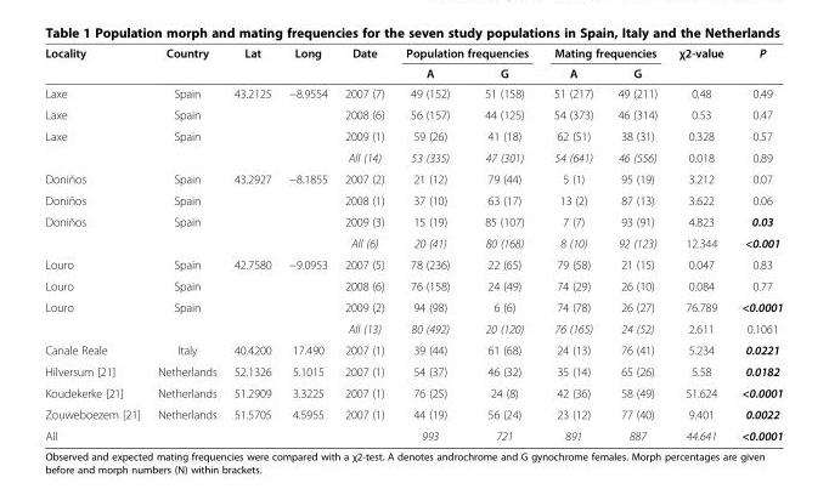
<table><thead><tr><td rowspan="2">Locality</td><td rowspan="2">Country</td><td rowspan="2">Lat</td><td rowspan="2">Long</td><td rowspan="2">Date</td><td colspan="2">Population frequencies</td><td colspan="2">Mating frequencies</td><td rowspan="2">χ2-value</td><td rowspan="2">P</td></tr><tr><td>A</td><td>G</td><td>A</td><td>G</td></tr></thead><tbody><tr><td>Laxe</td><td>Spain</td><td>43.2125</td><td>−8.9554</td><td>2007 (7)</td><td>49 (152)</td><td>51 (158)</td><td>51 (217)</td><td>49 (211)</td><td>0.48</td><td>0.49</td></tr><tr><td>Laxe</td><td>Spain</td><td></td><td></td><td>2008 (6)</td><td>56 (157)</td><td>44 (125)</td><td>54 (373)</td><td>46 (314)</td><td>0.53</td><td>0.47</td></tr><tr><td rowspan="2">Laxe</td><td>Spain</td><td></td><td></td><td>2009 (1)</td><td>59 (26)</td><td>41 (18)</td><td>62 (51)</td><td>38 (31)</td><td>0.328</td><td>0.57</td></tr><tr><td></td><td></td><td></td><td>All (14)</td><td>53 (335)</td><td>47 (301)</td><td>54 (641)</td><td>46 (556)</td><td>0.018</td><td>0.89</td></tr><tr><td>Doniños</td><td>Spain</td><td>43.2927</td><td>−8.1855</td><td>2007 (2)</td><td>21 (12)</td><td>79 (44)</td><td>5 (1)</td><td>95 (19)</td><td>3.212</td><td>0.07</td></tr><tr><td>Doniños</td><td>Spain</td><td></td><td></td><td>2008 (1)</td><td>37 (10)</td><td>63 (17)</td><td>13 (2)</td><td>87 (13)</td><td>3.622</td><td>0.06</td></tr><tr><td rowspan="2">Doniños</td><td>Spain</td><td></td><td></td><td>2009 (3)</td><td>15 (19)</td><td>85 (107)</td><td>7 (7)</td><td>93 (91)</td><td>4.823</td><td>0.03</td></tr><tr><td></td><td></td><td></td><td>All (6)</td><td>20 (41)</td><td>80 (168)</td><td>8 (10)</td><td>92 (123)</td><td>12.344</td><td>&lt;0.001</td></tr><tr><td>Louro</td><td>Spain</td><td>42.7580</td><td>−9.0953</td><td>2007 (5)</td><td>78 (236)</td><td>22 (65)</td><td>79 (58)</td><td>21 (15)</td><td>0.047</td><td>0.83</td></tr><tr><td>Louro</td><td>Spain</td><td></td><td></td><td>2008 (6)</td><td>76 (158)</td><td>24 (49)</td><td>74 (29)</td><td>26 (10)</td><td>0.084</td><td>0.77</td></tr><tr><td rowspan="2">Louro</td><td>Spain</td><td></td><td></td><td>2009 (2)</td><td>94 (98)</td><td>6 (6)</td><td>74 (78)</td><td>26 (27)</td><td>76.789</td><td>&lt;0.0001</td></tr><tr><td></td><td></td><td></td><td>All (13)</td><td>80 (492)</td><td>20 (120)</td><td>76 (165)</td><td>24 (52)</td><td>2.611</td><td>0.1061</td></tr><tr><td>Canale Reale</td><td>Italy</td><td>40.4200</td><td>17.490</td><td>2007 (1)</td><td>39 (44)</td><td>61 (68)</td><td>24 (13)</td><td>76 (41)</td><td>5.234</td><td>0.0221</td></tr><tr><td>Hilversum [21]</td><td>Netherlands</td><td>52.1326</td><td>5.1015</td><td>2007 (1)</td><td>54 (37)</td><td>46 (32)</td><td>35 (14)</td><td>65 (26)</td><td>5.58</td><td>0.0182</td></tr><tr><td>Koudekerke [21]</td><td>Netherlands</td><td>51.2909</td><td>3.3225</td><td>2007 (1)</td><td>76 (25)</td><td>24 (8)</td><td>42 (36)</td><td>58 (49)</td><td>51.624</td><td>&lt;0.0001</td></tr><tr><td>Zouweboezem [21]</td><td>Netherlands</td><td>51.5705</td><td>4.5955</td><td>2007 (1)</td><td>44 (19)</td><td>56 (24)</td><td>23 (12)</td><td>77 (40)</td><td>9.401</td><td>0.0022</td></tr><tr><td>All</td><td></td><td></td><td></td><td></td><td>993</td><td>721</td><td>891</td><td>887</td><td>44.641</td><td>&lt;0.0001</td></tr></tbody></table>